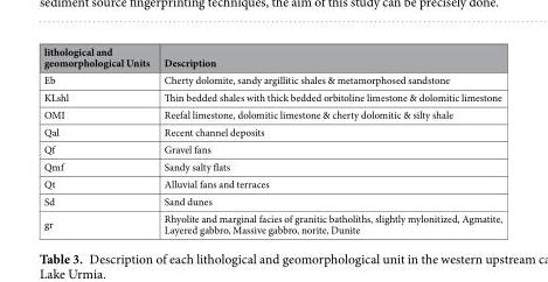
<table><thead><tr><td>lithological and geomorphological Units</td><td>Description</td></tr></thead><tbody><tr><td>Eb</td><td>Cherty dolomite, sandy argillitic shales &amp; metamorphosed sandstone</td></tr><tr><td>KLshl</td><td>Thin bedded shales with thick bedded orbitoline limestone &amp; dolomitic limestone</td></tr><tr><td>OMI</td><td>Reefal limestone, dolomitic limestone &amp; cherty dolomitic &amp; silty shale</td></tr><tr><td>Qal</td><td>Recent channel deposits</td></tr><tr><td>Qf</td><td>Gravel fans</td></tr><tr><td>Qmf</td><td>Sandy salty flats</td></tr><tr><td>Qt</td><td>Alluvial fans and terraces</td></tr><tr><td>Sd</td><td>Sand dunes</td></tr><tr><td>gr</td><td>Rhyolite and marginal facies of granitic batholiths, slightly mylonitized, Agmatite, Layered gabbro, Massive gabbro, norite, Dunite</td></tr></tbody></table>